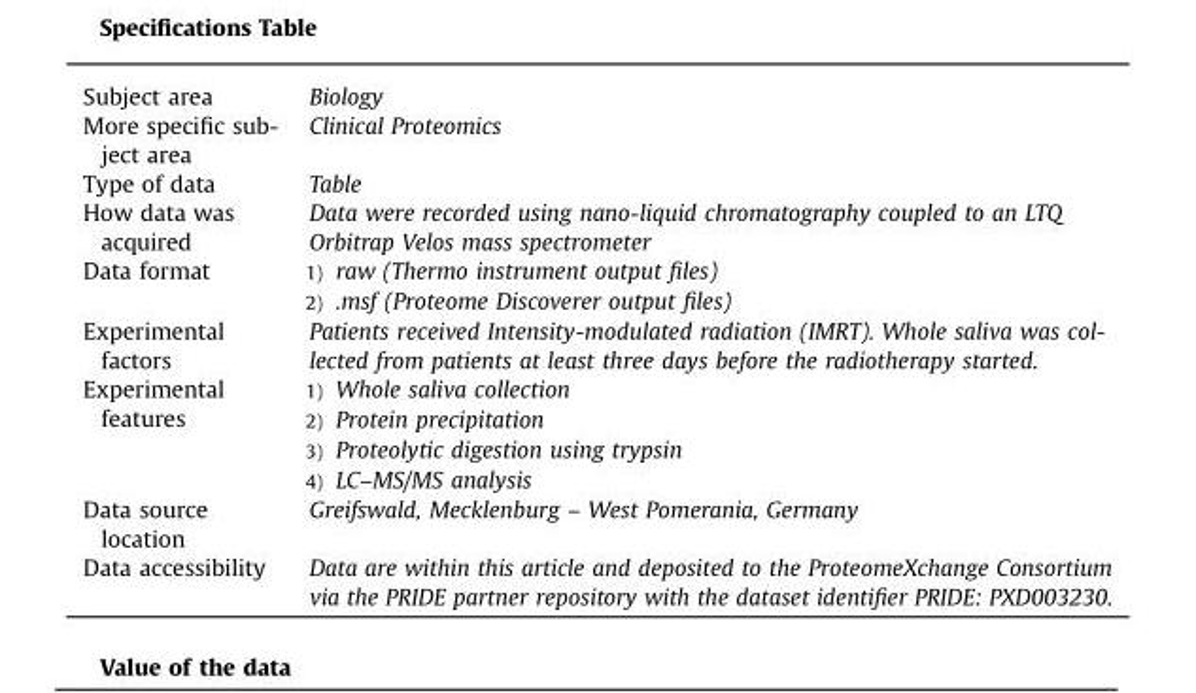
<table><tbody><tr><td>Subject area</td><td>Biology</td></tr><tr><td>More specific sub- ject area</td><td>Clinical Proteomics</td></tr><tr><td>Type of data</td><td>Table</td></tr><tr><td>How data was acquired</td><td>Data were recorded using nano-liquid chromatography coupled to an LTQ Orbitrap Velos mass spectrometer</td></tr><tr><td>Data format</td><td>1) raw (Thermo instrument output files) 2) .msf (Proteome Discoverer output files)</td></tr><tr><td>Experimental factors</td><td>Patients received Intensity-modulated radiation (IMRT). Whole saliva was col- lected from patients at least three days before the radiotherapy started.</td></tr><tr><td>Experimental features</td><td>1) Whole saliva collection 2) Protein precipitation 3) Proteolytic digestion using trypsin 4) LC–MS/MS analysis</td></tr><tr><td>Data source location</td><td>Greifswald, Mecklenburg – West Pomerania, Germany</td></tr><tr><td>Data accessibility</td><td>Data are within this article and deposited to the ProteomeXchange Consortium via the PRIDE partner repository with the dataset identifier PRIDE: PXD003230.</td></tr></tbody></table>